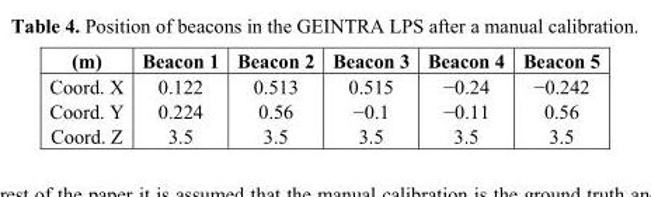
<table><thead><tr><td>(m)</td><td>Beacon 1</td><td>Beacon 2</td><td>Beacon 3</td><td>Beacon 4</td><td>Beacon 5</td></tr></thead><tbody><tr><td>Coord. X</td><td>0.122</td><td>0.513</td><td>0.515</td><td>−0.24</td><td>−0.242</td></tr><tr><td>Coord. Y</td><td>0.224</td><td>0.56</td><td>−0.1</td><td>−0.11</td><td>0.56</td></tr><tr><td>Coord. Z</td><td>3.5</td><td>3.5</td><td>3.5</td><td>3.5</td><td>3.5</td></tr></tbody></table>